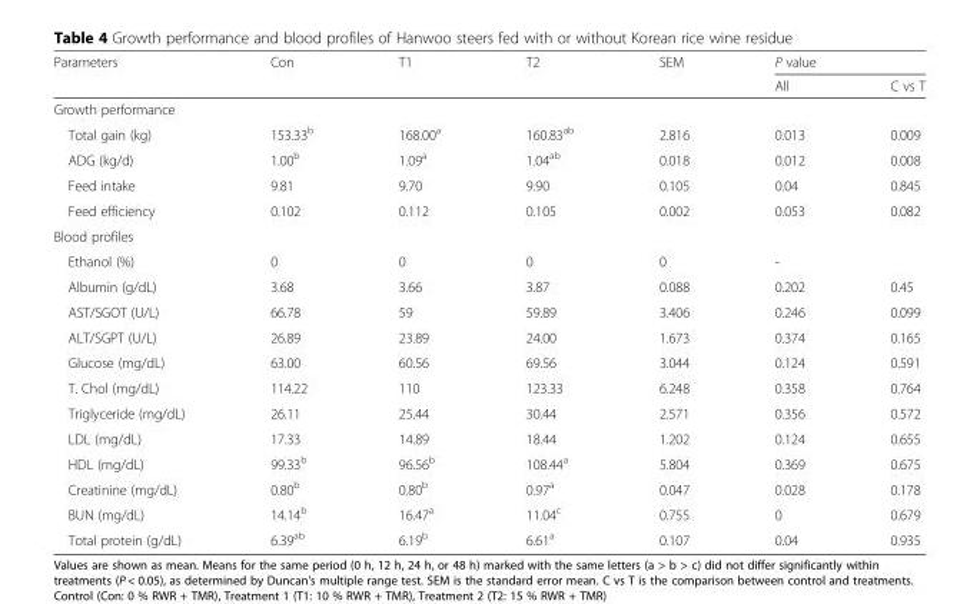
<table><thead><tr><td rowspan="2">Parameters</td><td rowspan="2">Con</td><td rowspan="2">T1</td><td rowspan="2">T2</td><td rowspan="2">SEM</td><td colspan="2">P value</td></tr><tr><td>All</td><td>C vs T</td></tr></thead><tbody><tr><td colspan="7">Growth performance</td></tr><tr><td>Total gain (kg)</td><td>153.33<sup>b</sup></td><td>168.00<sup>a</sup></td><td>160.83<sup>ab</sup></td><td>2.816</td><td>0.013</td><td>0.009</td></tr><tr><td>ADG (kg/d)</td><td>1.00<sup>b</sup></td><td>1.09<sup>a</sup></td><td>1.04<sup>ab</sup></td><td>0.018</td><td>0.012</td><td>0.008</td></tr><tr><td>Feed intake</td><td>9.81</td><td>9.70</td><td>9.90</td><td>0.105</td><td>0.04</td><td>0.845</td></tr><tr><td>Feed efficiency</td><td>0.102</td><td>0.112</td><td>0.105</td><td>0.002</td><td>0.053</td><td>0.082</td></tr><tr><td colspan="7">Blood profiles</td></tr><tr><td>Ethanol (%)</td><td>0</td><td>0</td><td>0</td><td>0</td><td>-</td><td></td></tr><tr><td>Albumin (g/dL)</td><td>3.68</td><td>3.66</td><td>3.87</td><td>0.088</td><td>0.202</td><td>0.45</td></tr><tr><td>AST/SGOT (U/L)</td><td>66.78</td><td>59</td><td>59.89</td><td>3.406</td><td>0.246</td><td>0.099</td></tr><tr><td>ALT/SGPT (U/L)</td><td>26.89</td><td>23.89</td><td>24.00</td><td>1.673</td><td>0.374</td><td>0.165</td></tr><tr><td>Glucose (mg/dL)</td><td>63.00</td><td>60.56</td><td>69.56</td><td>3.044</td><td>0.124</td><td>0.591</td></tr><tr><td>T. Chol (mg/dL)</td><td>114.22</td><td>110</td><td>123.33</td><td>6.248</td><td>0.358</td><td>0.764</td></tr><tr><td>Triglyceride (mg/dL)</td><td>26.11</td><td>25.44</td><td>30.44</td><td>2.571</td><td>0.356</td><td>0.572</td></tr><tr><td>LDL (mg/dL)</td><td>17.33</td><td>14.89</td><td>18.44</td><td>1.202</td><td>0.124</td><td>0.655</td></tr><tr><td>HDL (mg/dL)</td><td>99.33<sup>b</sup></td><td>96.56<sup>b</sup></td><td>108.44<sup>a</sup></td><td>5.804</td><td>0.369</td><td>0.675</td></tr><tr><td>Creatinine (mg/dL)</td><td>0.80<sup>b</sup></td><td>0.80<sup>b</sup></td><td>0.97<sup>a</sup></td><td>0.047</td><td>0.028</td><td>0.178</td></tr><tr><td>BUN (mg/dL)</td><td>14.14<sup>b</sup></td><td>16.47<sup>a</sup></td><td>11.04<sup>c</sup></td><td>0.755</td><td>0</td><td>0.679</td></tr><tr><td>Total protein (g/dL)</td><td>6.39<sup>ab</sup></td><td>6.19<sup>b</sup></td><td>6.61<sup>a</sup></td><td>0.107</td><td>0.04</td><td>0.935</td></tr></tbody></table>